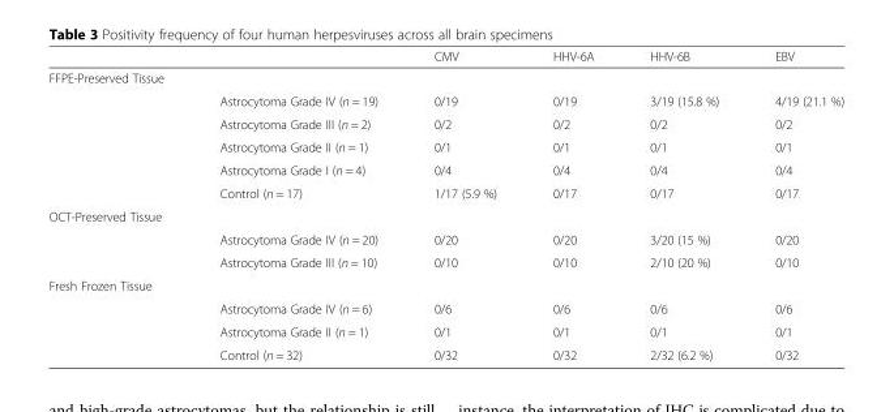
<table><thead><tr><td></td><td></td><td>CMV</td><td>HHV-6A</td><td>HHV-6B</td><td>EBV</td></tr></thead><tbody><tr><td colspan="6">FFPE-Preserved Tissue</td></tr><tr><td></td><td>Astrocytoma Grade IV (n = 19)</td><td>0/19</td><td>0/19</td><td>3/19 (15.8 %)</td><td>4/19 (21.1 %)</td></tr><tr><td></td><td>Astrocytoma Grade III (n = 2)</td><td>0/2</td><td>0/2</td><td>0/2</td><td>0/2</td></tr><tr><td></td><td>Astrocytoma Grade II (n = 1)</td><td>0/1</td><td>0/1</td><td>0/1</td><td>0/1</td></tr><tr><td></td><td>Astrocytoma Grade I (n = 4)</td><td>0/4</td><td>0/4</td><td>0/4</td><td>0/4</td></tr><tr><td></td><td>Control (n = 17)</td><td>1/17 (5.9 %)</td><td>0/17</td><td>0/17</td><td>0/17</td></tr><tr><td colspan="6">OCT-Preserved Tissue</td></tr><tr><td></td><td>Astrocytoma Grade IV (n = 20)</td><td>0/20</td><td>0/20</td><td>3/20 (15 %)</td><td>0/20</td></tr><tr><td></td><td>Astrocytoma Grade III (n = 10)</td><td>0/10</td><td>0/10</td><td>2/10 (20 %)</td><td>0/10</td></tr><tr><td colspan="6">Fresh Frozen Tissue</td></tr><tr><td></td><td>Astrocytoma Grade IV (n = 6)</td><td>0/6</td><td>0/6</td><td>0/6</td><td>0/6</td></tr><tr><td></td><td>Astrocytoma Grade II (n = 1)</td><td>0/1</td><td>0/1</td><td>0/1</td><td>0/1</td></tr><tr><td></td><td>Control (n = 32)</td><td>0/32</td><td>0/32</td><td>2/32 (6.2 %)</td><td>0/32</td></tr></tbody></table>